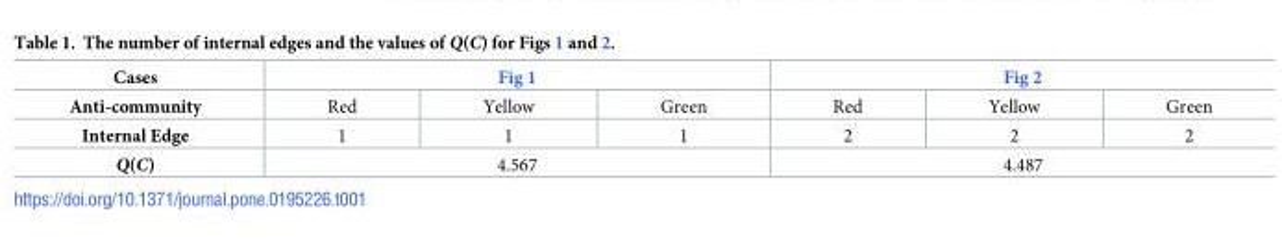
<table><thead><tr><td rowspan="2">Cases Anti-community</td><td colspan="3">Fig 1</td><td colspan="3">Fig 2</td></tr><tr><td>Red</td><td>Yellow</td><td>Green</td><td>Red</td><td>Yellow</td><td>Green</td></tr></thead><tbody><tr><td>Internal Edge</td><td>1</td><td>1</td><td>1</td><td>2</td><td>2</td><td>2</td></tr><tr><td>Q(C)</td><td colspan="3">4.567</td><td colspan="3">4.487</td></tr></tbody></table>